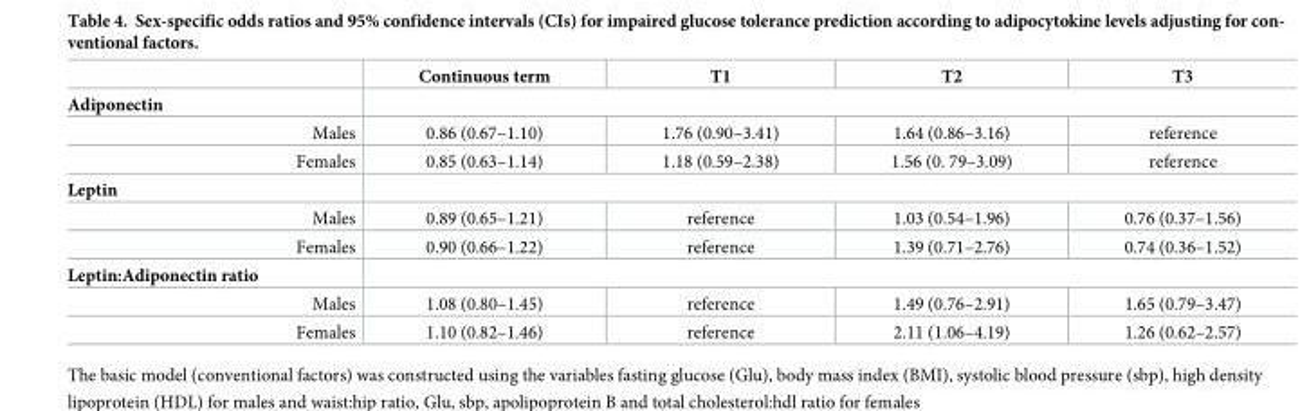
<table><thead><tr><td></td><td>Continuous term</td><td>T1</td><td>T2</td><td>T3</td></tr></thead><tbody><tr><td colspan="5">Adiponectin</td></tr><tr><td>Males</td><td>0.86 (0.67–1.10)</td><td>1.76 (0.90–3.41)</td><td>1.64 (0.86–3.16)</td><td>reference</td></tr><tr><td>Females</td><td>0.85 (0.63–1.14)</td><td>1.18 (0.59–2.38)</td><td>1.56 (0. 79–3.09)</td><td>reference</td></tr><tr><td colspan="5">Leptin</td></tr><tr><td>Males</td><td>0.89 (0.65–1.21)</td><td>reference</td><td>1.03 (0.54–1.96)</td><td>0.76 (0.37–1.56)</td></tr><tr><td>Females</td><td>0.90 (0.66–1.22)</td><td>reference</td><td>1.39 (0.71–2.76)</td><td>0.74 (0.36–1.52)</td></tr><tr><td colspan="5">Leptin:Adiponectin ratio</td></tr><tr><td>Males</td><td>1.08 (0.80–1.45)</td><td>reference</td><td>1.49 (0.76–2.91)</td><td>1.65 (0.79–3.47)</td></tr><tr><td>Females</td><td>1.10 (0.82–1.46)</td><td>reference</td><td>2.11 (1.06–4.19)</td><td>1.26 (0.62–2.57)</td></tr></tbody></table>